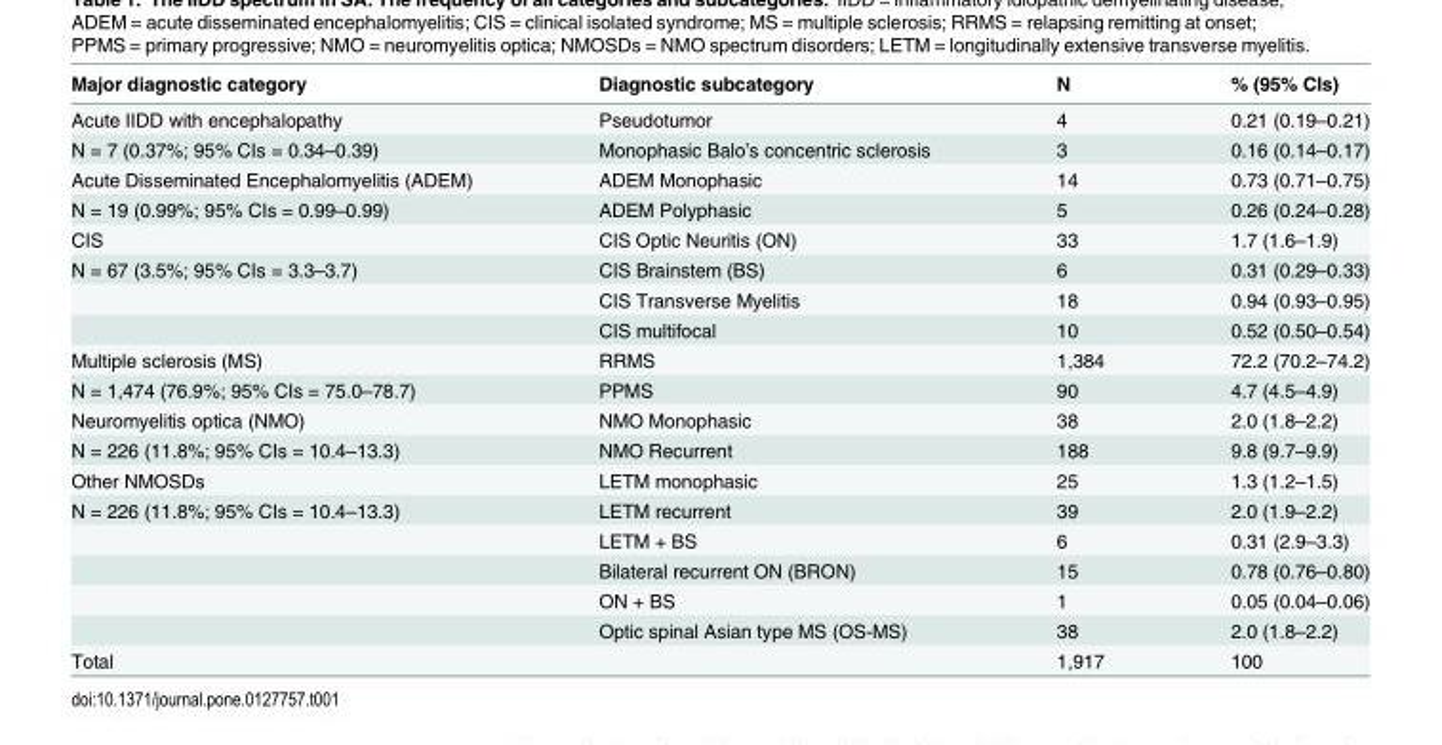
<table><thead><tr><td>Major diagnostic category</td><td>Diagnostic subcategory</td><td>N</td><td>% (95% CIs)</td></tr></thead><tbody><tr><td>Acute IIDD with encephalopathy</td><td>Pseudotumor</td><td>4</td><td>0.21 (0.19–0.21)</td></tr><tr><td>N = 7 (0.37%; 95% CIs = 0.34–0.39)</td><td>Monophasic Balo’s concentric sclerosis</td><td>3</td><td>0.16 (0.14–0.17)</td></tr><tr><td>Acute Disseminated Encephalomyelitis (ADEM)</td><td>ADEM Monophasic</td><td>14</td><td>0.73 (0.71–0.75)</td></tr><tr><td>N = 19 (0.99%; 95% CIs = 0.99–0.99)</td><td>ADEM Polyphasic</td><td>5</td><td>0.26 (0.24–0.28)</td></tr><tr><td>CIS</td><td>CIS Optic Neuritis (ON)</td><td>33</td><td>1.7 (1.6–1.9)</td></tr><tr><td rowspan="3">N = 67 (3.5%; 95% CIs = 3.3–3.7)</td><td>CIS Brainstem (BS)</td><td>6</td><td>0.31 (0.29–0.33)</td></tr><tr><td>CIS Transverse Myelitis</td><td>18</td><td>0.94 (0.93–0.95)</td></tr><tr><td>CIS multifocal</td><td>10</td><td>0.52 (0.50–0.54)</td></tr><tr><td>Multiple sclerosis (MS)</td><td>RRMS</td><td>1,384</td><td>72.2 (70.2–74.2)</td></tr><tr><td>N = 1,474 (76.9%; 95% CIs = 75.0–78.7)</td><td>PPMS</td><td>90</td><td>4.7 (4.5–4.9)</td></tr><tr><td>Neuromyelitis optica (NMO)</td><td>NMO Monophasic</td><td>38</td><td>2.0 (1.8–2.2)</td></tr><tr><td>N = 226 (11.8%; 95% CIs = 10.4–13.3)</td><td>NMO Recurrent</td><td>188</td><td>9.8 (9.7–9.9)</td></tr><tr><td>Other NMOSDs</td><td>LETM monophasic</td><td>25</td><td>1.3 (1.2–1.5)</td></tr><tr><td rowspan="5">N = 226 (11.8%; 95% CIs = 10.4–13.3)</td><td>LETM recurrent</td><td>39</td><td>2.0 (1.9–2.2)</td></tr><tr><td>LETM + BS</td><td>6</td><td>0.31 (2.9–3.3)</td></tr><tr><td>Bilateral recurrent ON (BRON)</td><td>15</td><td>0.78 (0.76–0.80)</td></tr><tr><td>ON + BS</td><td>1</td><td>0.05 (0.04–0.06)</td></tr><tr><td>Optic spinal Asian type MS (OS-MS)</td><td>38</td><td>2.0 (1.8–2.2)</td></tr><tr><td>Total</td><td></td><td>1,917</td><td>100</td></tr></tbody></table>